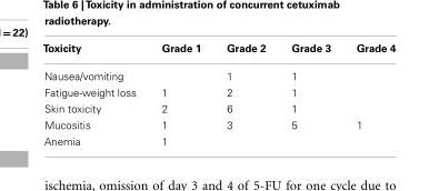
<table><thead><tr><td>Toxicity</td><td>Grade 1</td><td>Grade 2</td><td>Grade 3</td><td>Grade 4</td></tr></thead><tbody><tr><td>Nausea/vomiting</td><td></td><td>1</td><td>1</td><td></td></tr><tr><td>Fatigue-weight loss</td><td>1</td><td>2</td><td>1</td><td></td></tr><tr><td>Skin toxicity</td><td>2</td><td>6</td><td>1</td><td></td></tr><tr><td>Mucositis</td><td>1</td><td>3</td><td>5</td><td>1</td></tr><tr><td>Anemia</td><td>1</td><td></td><td></td><td></td></tr></tbody></table>